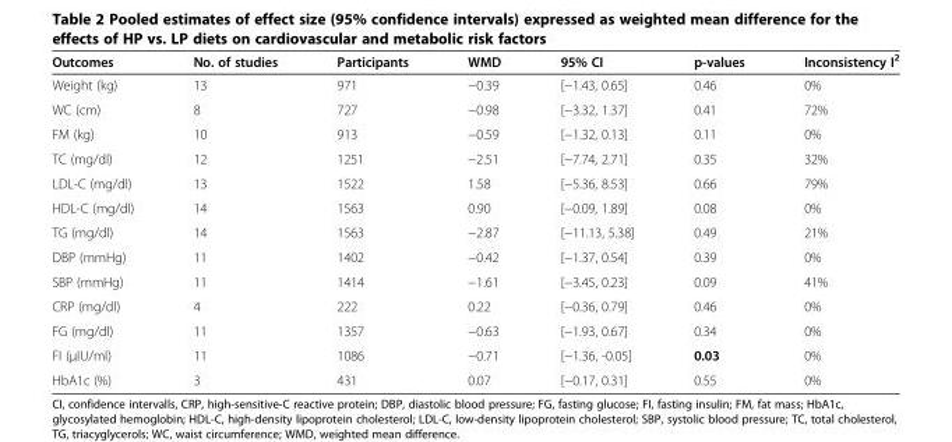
<table><thead><tr><td>Outcomes</td><td>No. of studies</td><td>Participants</td><td>WMD</td><td>95% CI</td><td>p-values</td><td>Inconsistency I<sup>2</sup></td></tr></thead><tbody><tr><td>Weight (kg)</td><td>13</td><td>971</td><td>−0.39</td><td>[−1.43, 0.65]</td><td>0.46</td><td>0%</td></tr><tr><td>WC (cm)</td><td>8</td><td>727</td><td>−0.98</td><td>[−3.32, 1.37]</td><td>0.41</td><td>72%</td></tr><tr><td>FM (kg)</td><td>10</td><td>913</td><td>−0.59</td><td>[−1.32, 0.13]</td><td>0.11</td><td>0%</td></tr><tr><td>TC (mg/dl)</td><td>12</td><td>1251</td><td>−2.51</td><td>[−7.74, 2.71]</td><td>0.35</td><td>32%</td></tr><tr><td>LDL-C (mg/dl)</td><td>13</td><td>1522</td><td>1.58</td><td>[−5.36, 8.53]</td><td>0.66</td><td>79%</td></tr><tr><td>HDL-C (mg/dl)</td><td>14</td><td>1563</td><td>0.90</td><td>[−0.09, 1.89]</td><td>0.08</td><td>0%</td></tr><tr><td>TG (mg/dl)</td><td>14</td><td>1563</td><td>−2.87</td><td>[−11.13, 5.38]</td><td>0.49</td><td>21%</td></tr><tr><td>DBP (mmHg)</td><td>11</td><td>1402</td><td>−0.42</td><td>[−1.37, 0.54]</td><td>0.39</td><td>0%</td></tr><tr><td>SBP (mmHg)</td><td>11</td><td>1414</td><td>−1.61</td><td>[−3.45, 0.23]</td><td>0.09</td><td>41%</td></tr><tr><td>CRP (mg/dl)</td><td>4</td><td>222</td><td>0.22</td><td>[−0.36, 0.79]</td><td>0.46</td><td>0%</td></tr><tr><td>FG (mg/dl)</td><td>11</td><td>1357</td><td>−0.63</td><td>[−1.93, 0.67]</td><td>0.34</td><td>0%</td></tr><tr><td>FI (μIU/ml)</td><td>11</td><td>1086</td><td>−0.71</td><td>[−1.36, -0.05]</td><td>0.03</td><td>0%</td></tr><tr><td>HbA1c (%)</td><td>3</td><td>431</td><td>0.07</td><td>[−0.17, 0.31]</td><td>0.55</td><td>0%</td></tr></tbody></table>